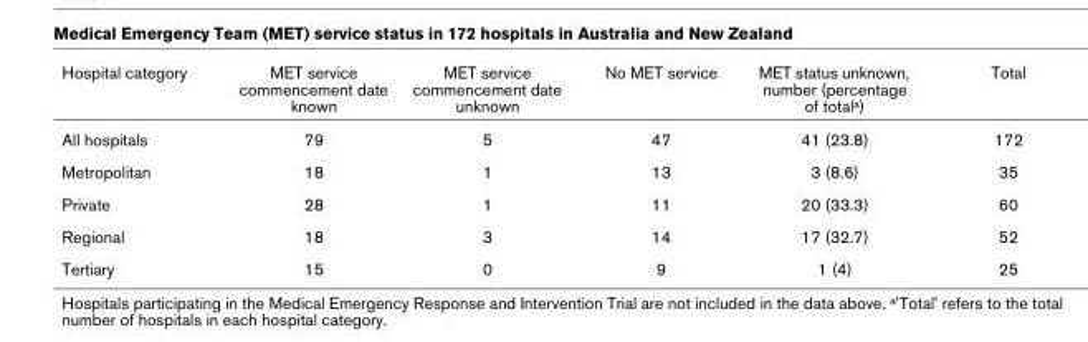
<table><thead><tr><td>Hospital category</td><td>MET service commencement date known</td><td>MET service commencement date unknown</td><td>No MET service</td><td>MET status unknown, number (percentage of total<sup>a</sup>)</td><td>Total</td></tr></thead><tbody><tr><td>All hospitals</td><td>79</td><td>5</td><td>47</td><td>41 (23.8)</td><td>172</td></tr><tr><td>Metropolitan</td><td>18</td><td>1</td><td>13</td><td>3 (8.6)</td><td>35</td></tr><tr><td>Private</td><td>28</td><td>1</td><td>11</td><td>20 (33.3)</td><td>60</td></tr><tr><td>Regional</td><td>18</td><td>3</td><td>14</td><td>17 (32.7)</td><td>52</td></tr><tr><td>Tertiary</td><td>15</td><td>0</td><td>9</td><td>1 (4)</td><td>25</td></tr></tbody></table>